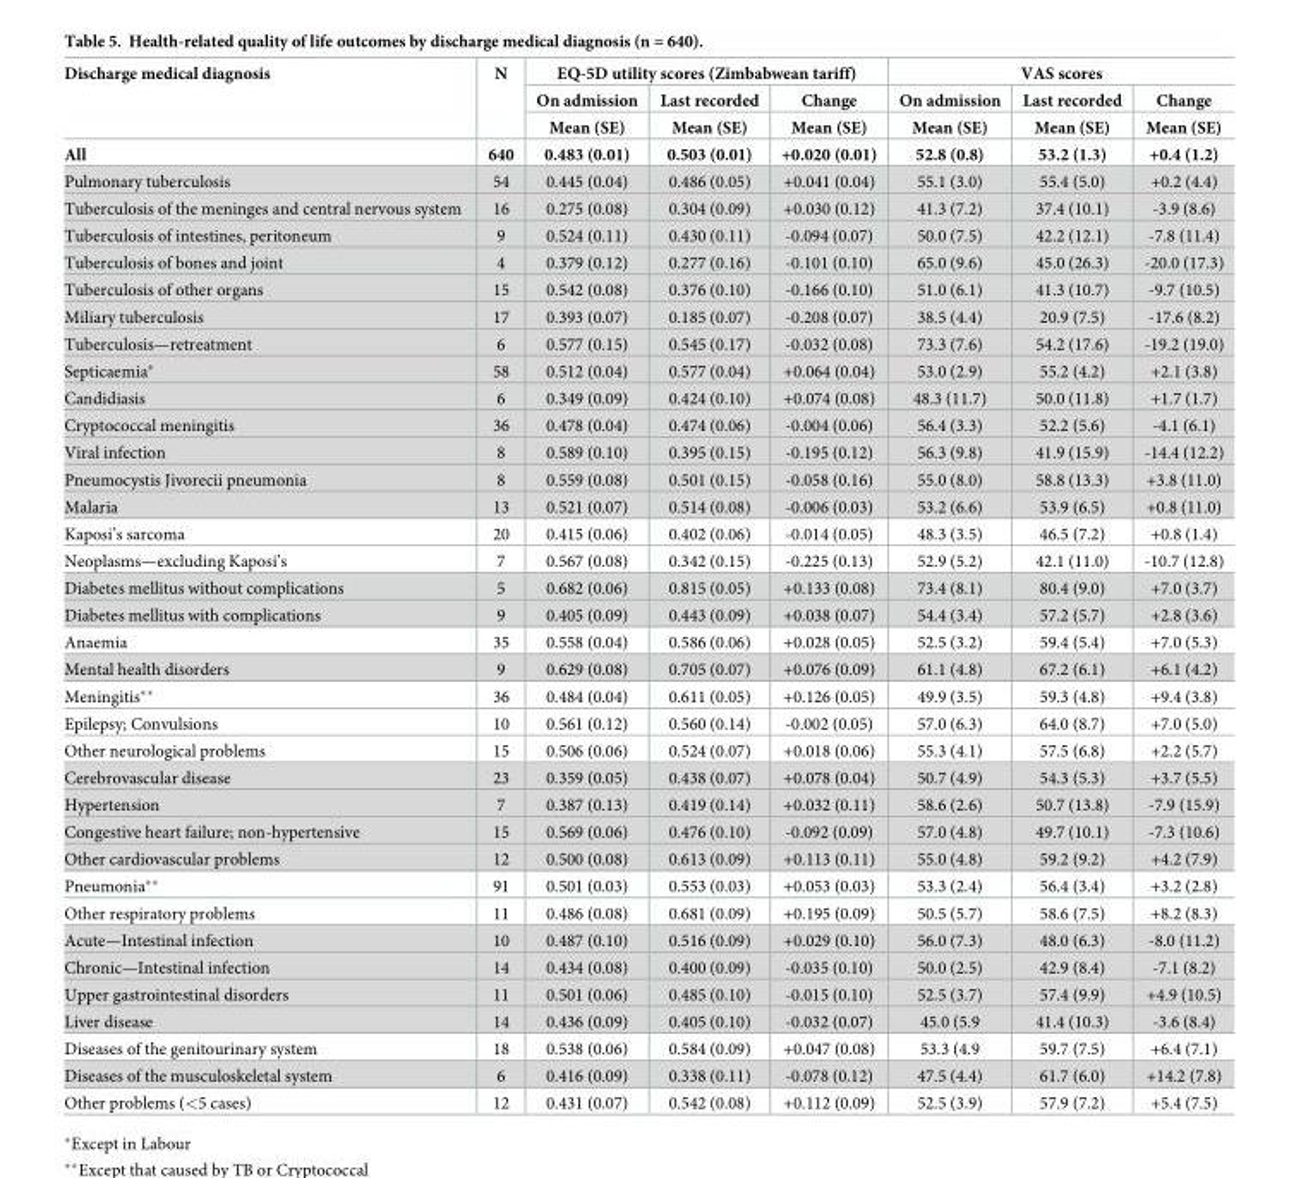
<table><thead><tr><td rowspan="3">Discharge medical diagnosis</td><td rowspan="3">N</td><td colspan="3">EQ-5D utility scores (Zimbabwean tariff)</td><td colspan="3">VAS scores</td></tr><tr><td rowspan="2">On admission Mean (SE)</td><td rowspan="2">Last recorded Mean (SE)</td><td rowspan="2">Change Mean (SE)</td><td rowspan="2">On admission Mean (SE)</td><td rowspan="2">Last recorded Mean (SE)</td><td rowspan="2">Change Mean (SE)</td></tr><tr></tr></thead><tbody><tr><td>All</td><td>640</td><td>0.483 (0.01)</td><td>0.503 (0.01)</td><td>+0.020 (0.01)</td><td>52.8 (0.8)</td><td>53.2 (1.3)</td><td>+0.4 (1.2)</td></tr><tr><td>Pulmonary tuberculosis</td><td>54</td><td>0.445 (0.04)</td><td>0.486 (0.05)</td><td>+0.041 (0.04)</td><td>55.1 (3.0)</td><td>55.4 (5.0)</td><td>+0.2 (4.4)</td></tr><tr><td>Tuberculosis of the meninges and central nervous system</td><td>16</td><td>0.275 (0.08)</td><td>0.304 (0.09)</td><td>+0.030 (0.12)</td><td>41.3 (7.2)</td><td>37.4 (10.1)</td><td>-3.9 (8.6)</td></tr><tr><td>Tuberculosis of intestines, peritoneum</td><td>9</td><td>0.524 (0.11)</td><td>0.430 (0.11)</td><td>-0.094 (0.07)</td><td>50.0 (7.5)</td><td>42.2 (12.1)</td><td>-7.8 (11.4)</td></tr><tr><td>Tuberculosis of bones and joint</td><td>4</td><td>0.379 (0.12)</td><td>0.277 (0.16)</td><td>-0.101 (0.10)</td><td>65.0 (9.6)</td><td>45.0 (26.3)</td><td>-20.0 (17.3)</td></tr><tr><td>Tuberculosis of other organs</td><td>15</td><td>0.542 (0.08)</td><td>0.376 (0.10)</td><td>-0.166 (0.10)</td><td>51.0 (6.1)</td><td>41.3 (10.7)</td><td>-9.7 (10.5)</td></tr><tr><td>Miliary tuberculosis</td><td>17</td><td>0.393 (0.07)</td><td>0.185 (0.07)</td><td>-0.208 (0.07)</td><td>38.5 (4.4)</td><td>20.9 (7.5)</td><td>-17.6 (8.2)</td></tr><tr><td>Tuberculosis—retreatment</td><td>6</td><td>0.577 (0.15)</td><td>0.545 (0.17)</td><td>-0.032 (0.08)</td><td>73.3 (7.6)</td><td>54.2 (17.6)</td><td>-19.2 (19.0)</td></tr><tr><td>Septicaemia*</td><td>58</td><td>0.512 (0.04)</td><td>0.577 (0.04)</td><td>+0.064 (0.04)</td><td>53.0 (2.9)</td><td>55.2 (4.2)</td><td>+2.1 (3.8)</td></tr><tr><td>Candidiasis</td><td>6</td><td>0.349 (0.09)</td><td>0.424 (0.10)</td><td>+0.074 (0.08)</td><td>48.3 (11.7)</td><td>50.0 (11.8)</td><td>+1.7 (1.7)</td></tr><tr><td>Cryptococcal meningitis</td><td>36</td><td>0.478 (0.04)</td><td>0.474 (0.06)</td><td>-0.004 (0.06)</td><td>56.4 (3.3)</td><td>52.2 (5.6)</td><td>-4.1 (6.1)</td></tr><tr><td>Viral infection</td><td>8</td><td>0.589 (0.10)</td><td>0.395 (0.15)</td><td>-0.195 (0.12)</td><td>56.3 (9.8)</td><td>41.9 (15.9)</td><td>-14.4 (12.2)</td></tr><tr><td>Pneumocystis Jivorecii pneumonia</td><td>8</td><td>0.559 (0.08)</td><td>0.501 (0.15)</td><td>-0.058 (0.16)</td><td>55.0 (8.0)</td><td>58.8 (13.3)</td><td>+3.8 (11.0)</td></tr><tr><td>Malaria</td><td>13</td><td>0.521 (0.07)</td><td>0.514 (0.08)</td><td>-0.006 (0.03)</td><td>53.2 (6.6)</td><td>53.9 (6.5)</td><td>+0.8 (11.0)</td></tr><tr><td>Kaposi’s sarcoma</td><td>20</td><td>0.415 (0.06)</td><td>0.402 (0.06)</td><td>-0.014 (0.05)</td><td>48.3 (3.5)</td><td>46.5 (7.2)</td><td>+0.8 (1.4)</td></tr><tr><td>Neoplasms—excluding Kaposi’s</td><td>7</td><td>0.567 (0.08)</td><td>0.342 (0.15)</td><td>-0.225 (0.13)</td><td>52.9 (5.2)</td><td>42.1 (11.0)</td><td>-10.7 (12.8)</td></tr><tr><td>Diabetes mellitus without complications</td><td>5</td><td>0.682 (0.06)</td><td>0.815 (0.05)</td><td>+0.133 (0.08)</td><td>73.4 (8.1)</td><td>80.4 (9.0)</td><td>+7.0 (3.7)</td></tr><tr><td>Diabetes mellitus with complications</td><td>9</td><td>0.405 (0.09)</td><td>0.443 (0.09)</td><td>+0.038 (0.07)</td><td>54.4 (3.4)</td><td>57.2 (5.7)</td><td>+2.8 (3.6)</td></tr><tr><td>Anaemia</td><td>35</td><td>0.558 (0.04)</td><td>0.586 (0.06)</td><td>+0.028 (0.05)</td><td>52.5 (3.2)</td><td>59.4 (5.4)</td><td>+7.0 (5.3)</td></tr><tr><td>Mental health disorders</td><td>9</td><td>0.629 (0.08)</td><td>0.705 (0.07)</td><td>+0.076 (0.09)</td><td>61.1 (4.8)</td><td>67.2 (6.1)</td><td>+6.1 (4.2)</td></tr><tr><td>Meningitis**</td><td>36</td><td>0.484 (0.04)</td><td>0.611 (0.05)</td><td>+0.126 (0.05)</td><td>49.9 (3.5)</td><td>59.3 (4.8)</td><td>+9.4 (3.8)</td></tr><tr><td>Epilepsy; Convulsions</td><td>10</td><td>0.561 (0.12)</td><td>0.560 (0.14)</td><td>-0.002 (0.05)</td><td>57.0 (6.3)</td><td>64.0 (8.7)</td><td>+7.0 (5.0)</td></tr><tr><td>Other neurological problems</td><td>15</td><td>0.506 (0.06)</td><td>0.524 (0.07)</td><td>+0.018 (0.06)</td><td>55.3 (4.1)</td><td>57.5 (6.8)</td><td>+2.2 (5.7)</td></tr><tr><td>Cerebrovascular disease</td><td>23</td><td>0.359 (0.05)</td><td>0.438 (0.07)</td><td>+0.078 (0.04)</td><td>50.7 (4.9)</td><td>54.3 (5.3)</td><td>+3.7 (5.5)</td></tr><tr><td>Hypertension</td><td>7</td><td>0.387 (0.13)</td><td>0.419 (0.14)</td><td>+0.032 (0.11)</td><td>58.6 (2.6)</td><td>50.7 (13.8)</td><td>-7.9 (15.9)</td></tr><tr><td>Congestive heart failure; non-hypertensive</td><td>15</td><td>0.569 (0.06)</td><td>0.476 (0.10)</td><td>-0.092 (0.09)</td><td>57.0 (4.8)</td><td>49.7 (10.1)</td><td>-7.3 (10.6)</td></tr><tr><td>Other cardiovascular problems</td><td>12</td><td>0.500 (0.08)</td><td>0.613 (0.09)</td><td>+0.113 (0.11)</td><td>55.0 (4.8)</td><td>59.2 (9.2)</td><td>+4.2 (7.9)</td></tr><tr><td>Pneumonia**</td><td>91</td><td>0.501 (0.03)</td><td>0.553 (0.03)</td><td>+0.053 (0.03)</td><td>53.3 (2.4)</td><td>56.4 (3.4)</td><td>+3.2 (2.8)</td></tr><tr><td>Other respiratory problems</td><td>11</td><td>0.486 (0.08)</td><td>0.681 (0.09)</td><td>+0.195 (0.09)</td><td>50.5 (5.7)</td><td>58.6 (7.5)</td><td>+8.2 (8.3)</td></tr><tr><td>Acute—Intestinal infection</td><td>10</td><td>0.487 (0.10)</td><td>0.516 (0.09)</td><td>+0.029 (0.10)</td><td>56.0 (7.3)</td><td>48.0 (6.3)</td><td>-8.0 (11.2)</td></tr><tr><td>Chronic—Intestinal infection</td><td>14</td><td>0.434 (0.08)</td><td>0.400 (0.09)</td><td>-0.035 (0.10)</td><td>50.0 (2.5)</td><td>42.9 (8.4)</td><td>-7.1 (8.2)</td></tr><tr><td>Upper gastrointestinal disorders</td><td>11</td><td>0.501 (0.06)</td><td>0.485 (0.10)</td><td>-0.015 (0.10)</td><td>52.5 (3.7)</td><td>57.4 (9.9)</td><td>+4.9 (10.5)</td></tr><tr><td>Liver disease</td><td>14</td><td>0.436 (0.09)</td><td>0.405 (0.10)</td><td>-0.032 (0.07)</td><td>45.0 (5.9</td><td>41.4 (10.3)</td><td>-3.6 (8.4)</td></tr><tr><td>Diseases of the genitourinary system</td><td>18</td><td>0.538 (0.06)</td><td>0.584 (0.09)</td><td>+0.047 (0.08)</td><td>53.3 (4.9</td><td>59.7 (7.5)</td><td>+6.4 (7.1)</td></tr><tr><td>Diseases of the musculoskeletal system</td><td>6</td><td>0.416 (0.09)</td><td>0.338 (0.11)</td><td>-0.078 (0.12)</td><td>47.5 (4.4)</td><td>61.7 (6.0)</td><td>+14.2 (7.8)</td></tr><tr><td>Other problems (&lt;5 cases)</td><td>12</td><td>0.431 (0.07)</td><td>0.542 (0.08)</td><td>+0.112 (0.09)</td><td>52.5 (3.9)</td><td>57.9 (7.2)</td><td>+5.4 (7.5)</td></tr></tbody></table>